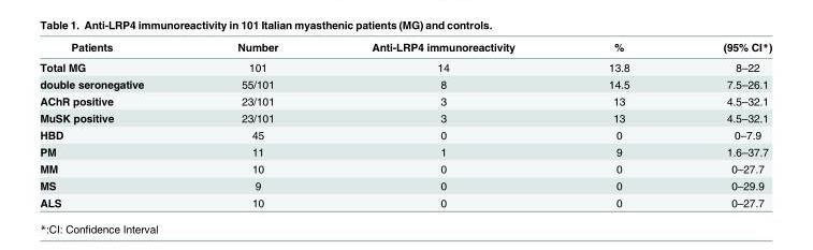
<table><thead><tr><td>Patients</td><td>Number</td><td>Anti-LRP4 immunoreactivity</td><td>%</td><td>(95% CI*)</td></tr></thead><tbody><tr><td>Total MG</td><td>101</td><td>14</td><td>13.8</td><td>8–22</td></tr><tr><td>double seronegative</td><td>55/101</td><td>8</td><td>14.5</td><td>7.5–26.1</td></tr><tr><td>AChR positive</td><td>23/101</td><td>3</td><td>13</td><td>4.5–32.1</td></tr><tr><td>MuSK positive</td><td>23/101</td><td>3</td><td>13</td><td>4.5–32.1</td></tr><tr><td>HBD</td><td>45</td><td>0</td><td>0</td><td>0–7.9</td></tr><tr><td>PM</td><td>11</td><td>1</td><td>9</td><td>1.6–37.7</td></tr><tr><td>MM</td><td>10</td><td>0</td><td>0</td><td>0–27.7</td></tr><tr><td>MS</td><td>9</td><td>0</td><td>0</td><td>0–29.9</td></tr><tr><td>ALS</td><td>10</td><td>0</td><td>0</td><td>0–27.7</td></tr></tbody></table>